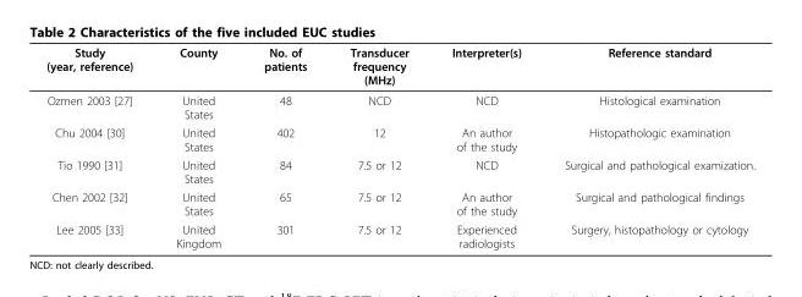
<table><thead><tr><td>Study (year, reference)</td><td>County</td><td>No. of patients</td><td>Transducer frequency (MHz)</td><td>Interpreter(s)</td><td>Reference standard</td></tr></thead><tbody><tr><td>Ozmen 2003 [27]</td><td>United States</td><td>48</td><td>NCD</td><td>NCD</td><td>Histological examination</td></tr><tr><td>Chu 2004 [30]</td><td>United States</td><td>402</td><td>12</td><td>An author of the study</td><td>Histopathologic examination</td></tr><tr><td>Tio 1990 [31]</td><td>United States</td><td>84</td><td>7.5 or 12</td><td>NCD</td><td>Surgical and pathological examization.</td></tr><tr><td>Chen 2002 [32]</td><td>United States</td><td>65</td><td>7.5 or 12</td><td>An author of the study</td><td>Surgical and pathological findings</td></tr><tr><td>Lee 2005 [33]</td><td>United Kingdom</td><td>301</td><td>7.5 or 12</td><td>Experienced radiologists</td><td>Surgery, histopathology or cytology</td></tr></tbody></table>